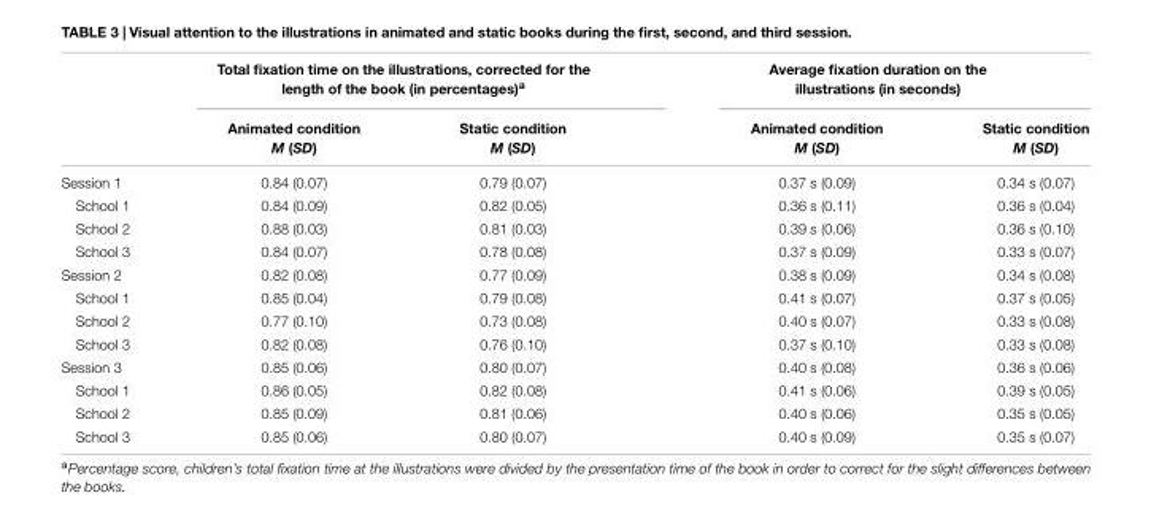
<table><thead><tr><td rowspan="2"></td><td colspan="2">Total fixation time on the illustrations, corrected for the length of the book (in percentages)<sup>a</sup></td><td colspan="2">Average fixation duration on the illustrations (in seconds)</td></tr><tr><td>Animated condition M (SD)</td><td>Static condition M (SD)</td><td>Animated condition M (SD)</td><td>Static condition M (SD)</td></tr></thead><tbody><tr><td>Session 1</td><td>0.84 (0.07)</td><td>0.79 (0.07)</td><td>0.37 s (0.09)</td><td>0.34 s (0.07)</td></tr><tr><td>School 1</td><td>0.84 (0.09)</td><td>0.82 (0.05)</td><td>0.36 s (0.11)</td><td>0.36 s (0.04)</td></tr><tr><td>School 2</td><td>0.88 (0.03)</td><td>0.81 (0.03)</td><td>0.39 s (0.06)</td><td>0.36 s (0.10)</td></tr><tr><td>School 3</td><td>0.84 (0.07)</td><td>0.78 (0.08)</td><td>0.37 s (0.09)</td><td>0.33 s (0.07)</td></tr><tr><td>Session 2</td><td>0.82 (0.08)</td><td>0.77 (0.09)</td><td>0.38 s (0.09)</td><td>0.34 s (0.08)</td></tr><tr><td>School 1</td><td>0.85 (0.04)</td><td>0.79 (0.08)</td><td>0.41 s (0.07)</td><td>0.37 s (0.05)</td></tr><tr><td>School 2</td><td>0.77 (0.10)</td><td>0.73 (0.08)</td><td>0.40 s (0.07)</td><td>0.33 s (0.08)</td></tr><tr><td>School 3</td><td>0.82 (0.08)</td><td>0.76 (0.10)</td><td>0.37 s (0.10)</td><td>0.33 s (0.08)</td></tr><tr><td>Session 3</td><td>0.85 (0.06)</td><td>0.80 (0.07)</td><td>0.40 s (0.08)</td><td>0.36 s (0.06)</td></tr><tr><td>School 1</td><td>0.86 (0.05)</td><td>0.82 (0.08)</td><td>0.41 s (0.06)</td><td>0.39 s (0.05)</td></tr><tr><td>School 2</td><td>0.85 (0.09)</td><td>0.81 (0.06)</td><td>0.40 s (0.06)</td><td>0.35 s (0.05)</td></tr><tr><td>School 3</td><td>0.85 (0.06)</td><td>0.80 (0.07)</td><td>0.40 s (0.09)</td><td>0.35 s (0.07)</td></tr></tbody></table>